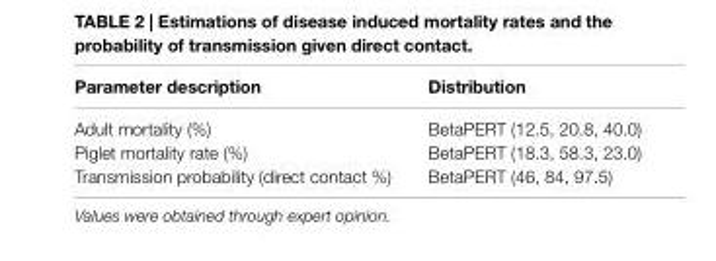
<table><thead><tr><td>Parameter description</td><td>Distribution</td></tr></thead><tbody><tr><td>Adult mortality (%)</td><td>BetaPERT (12.5, 20.8, 40.0)</td></tr><tr><td>Piglet mortality rate (%)</td><td>BetaPERT (18.3, 58.3, 23.0)</td></tr><tr><td>Transmission probability (direct contact %)</td><td>BetaPERT (46, 84, 97.5)</td></tr></tbody></table>